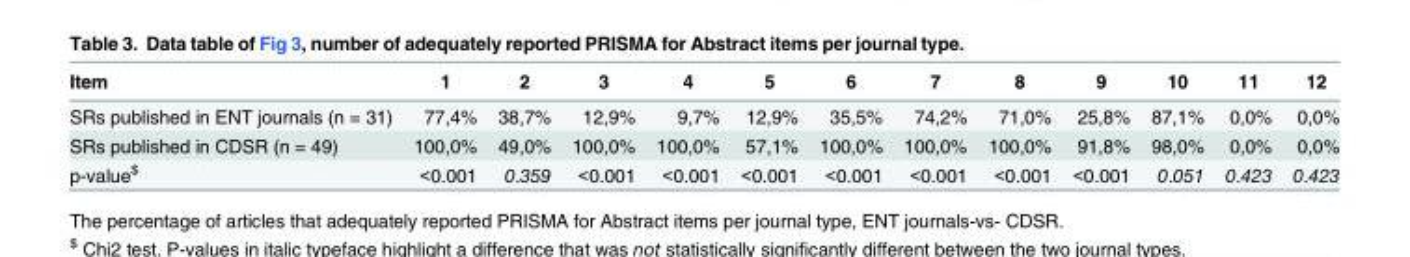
<table><thead><tr><td>Item</td><td>1</td><td>2</td><td>3</td><td>4</td><td>5</td><td>6</td><td>7</td><td>8</td><td>9</td><td>10</td><td>11</td><td>12</td></tr></thead><tbody><tr><td>SRs published in ENT journals (n = 31)</td><td>77,4%</td><td>38,7%</td><td>12,9%</td><td>9,7%</td><td>12,9%</td><td>35,5%</td><td>74,2%</td><td>71,0%</td><td>25,8%</td><td>87,1%</td><td>0,0%</td><td>0,0%</td></tr><tr><td>SRs published in CDSR (n = 49)</td><td>100,0%</td><td>49,0%</td><td>100,0%</td><td>100,0%</td><td>57,1%</td><td>100,0%</td><td>100,0%</td><td>100,0%</td><td>91,8%</td><td>98,0%</td><td>0,0%</td><td>0,0%</td></tr><tr><td>p-value<sup>$</sup></td><td>&lt;0.001</td><td>0.359</td><td>&lt;0.001</td><td>&lt;0.001</td><td>&lt;0.001</td><td>&lt;0.001</td><td>&lt;0.001</td><td>&lt;0.001</td><td>&lt;0.001</td><td>0.051</td><td>0.423</td><td>0.423</td></tr></tbody></table>